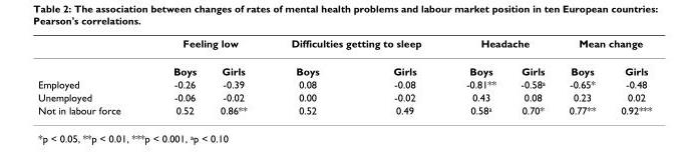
<table><thead><tr><td rowspan="2"></td><td colspan="2">Feeling low</td><td colspan="2">Difficulties getting to sleep</td><td colspan="2">Headache</td><td colspan="2">Mean change</td></tr><tr><td>Boys</td><td>Girls</td><td>Boys</td><td>Girls</td><td>Boys</td><td>Girls</td><td>Boys</td><td>Girls</td></tr></thead><tbody><tr><td>Employed</td><td>-0.26</td><td>-0.39</td><td>0.08</td><td>-0.08</td><td>-0.81**</td><td>-0.58<sup>a</sup></td><td>-0.65*</td><td>-0.48</td></tr><tr><td>Unemployed</td><td>-0.06</td><td>-0.02</td><td>0.00</td><td>-0.02</td><td>0.43</td><td>0.08</td><td>0.23</td><td>0.02</td></tr><tr><td>Not in labour force</td><td>0.52</td><td>0.86**</td><td>0.52</td><td>0.49</td><td>0.58<sup>a</sup></td><td>0.70*</td><td>0.77**</td><td>0.92***</td></tr></tbody></table>